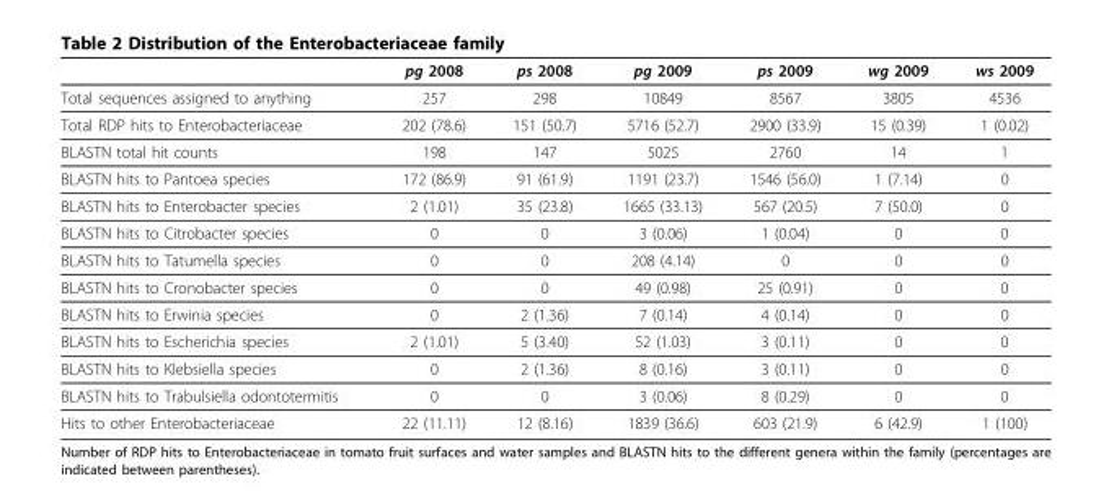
<table><thead><tr><td></td><td>pg 2008</td><td>ps 2008</td><td>pg 2009</td><td>ps 2009</td><td>wg 2009</td><td>ws 2009</td></tr></thead><tbody><tr><td>Total sequences assigned to anything</td><td>257</td><td>298</td><td>10849</td><td>8567</td><td>3805</td><td>4536</td></tr><tr><td>Total RDP hits to Enterobacteriaceae</td><td>202 (78.6)</td><td>151 (50.7)</td><td>5716 (52.7)</td><td>2900 (33.9)</td><td>15 (0.39)</td><td>1 (0.02)</td></tr><tr><td>BLASTN total hit counts</td><td>198</td><td>147</td><td>5025</td><td>2760</td><td>14</td><td>1</td></tr><tr><td>BLASTN hits to Pantoea species</td><td>172 (86.9)</td><td>91 (61.9)</td><td>1191 (23.7)</td><td>1546 (56.0)</td><td>1 (7.14)</td><td>0</td></tr><tr><td>BLASTN hits to Enterobacter species</td><td>2 (1.01)</td><td>35 (23.8)</td><td>1665 (33.13)</td><td>567 (20.5)</td><td>7 (50.0)</td><td>0</td></tr><tr><td>BLASTN hits to Citrobacter species</td><td>0</td><td>0</td><td>3 (0.06)</td><td>1 (0.04)</td><td>0</td><td>0</td></tr><tr><td>BLASTN hits to Tatumella species</td><td>0</td><td>0</td><td>208 (4.14)</td><td>0</td><td>0</td><td>0</td></tr><tr><td>BLASTN hits to Cronobacter species</td><td>0</td><td>0</td><td>49 (0.98)</td><td>25 (0.91)</td><td>0</td><td>0</td></tr><tr><td>BLASTN hits to Erwinia species</td><td>0</td><td>2 (1.36)</td><td>7 (0.14)</td><td>4 (0.14)</td><td>0</td><td>0</td></tr><tr><td>BLASTN hits to Escherichia species</td><td>2 (1.01)</td><td>5 (3.40)</td><td>52 (1.03)</td><td>3 (0.11)</td><td>0</td><td>0</td></tr><tr><td>BLASTN hits to Klebsiella species</td><td>0</td><td>2 (1.36)</td><td>8 (0.16)</td><td>3 (0.11)</td><td>0</td><td>0</td></tr><tr><td>BLASTN hits to Trabulsiella odontotermitis</td><td>0</td><td>0</td><td>3 (0.06)</td><td>8 (0.29)</td><td>0</td><td>0</td></tr><tr><td>Hits to other Enterobacteriaceae</td><td>22 (11.11)</td><td>12 (8.16)</td><td>1839 (36.6)</td><td>603 (21.9)</td><td>6 (42.9)</td><td>1 (100)</td></tr></tbody></table>